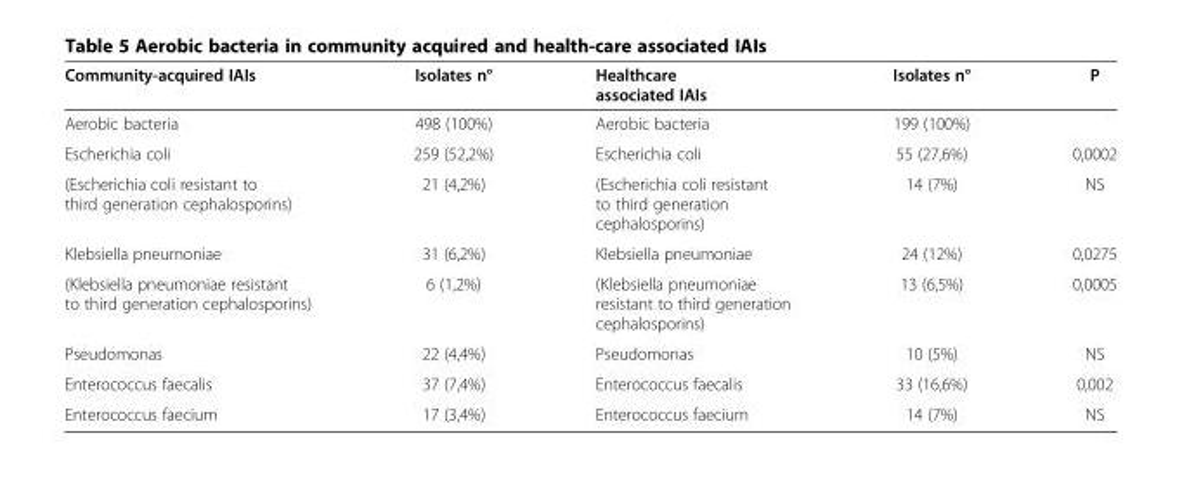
<table><thead><tr><td>Community-acquired IAIs</td><td>Isolates n°</td><td>Healthcare associated IAIs</td><td>Isolates n°</td><td>P</td></tr></thead><tbody><tr><td>Aerobic bacteria</td><td>498 (100%)</td><td>Aerobic bacteria</td><td>199 (100%)</td><td></td></tr><tr><td>Escherichia coli</td><td>259 (52,2%)</td><td>Escherichia coli</td><td>55 (27,6%)</td><td>0,0002</td></tr><tr><td>(Escherichia coli resistant to third generation cephalosporins)</td><td>21 (4,2%)</td><td>(Escherichia coli resistant to third generation cephalosporins)</td><td>14 (7%)</td><td>NS</td></tr><tr><td>Klebsiella pneumoniae</td><td>31 (6,2%)</td><td>Klebsiella pneumoniae</td><td>24 (12%)</td><td>0,0275</td></tr><tr><td>(Klebsiella pneumoniae resistant to third generation cephalosporins)</td><td>6 (1,2%)</td><td>(Klebsiella pneumoniae resistant to third generation cephalosporins)</td><td>13 (6,5%)</td><td>0,0005</td></tr><tr><td>Pseudomonas</td><td>22 (4,4%)</td><td>Pseudomonas</td><td>10 (5%)</td><td>NS</td></tr><tr><td>Enterococcus faecalis</td><td>37 (7,4%)</td><td>Enterococcus faecalis</td><td>33 (16,6%)</td><td>0,002</td></tr><tr><td>Enterococcus faecium</td><td>17 (3,4%)</td><td>Enterococcus faecium</td><td>14 (7%)</td><td>NS</td></tr></tbody></table>